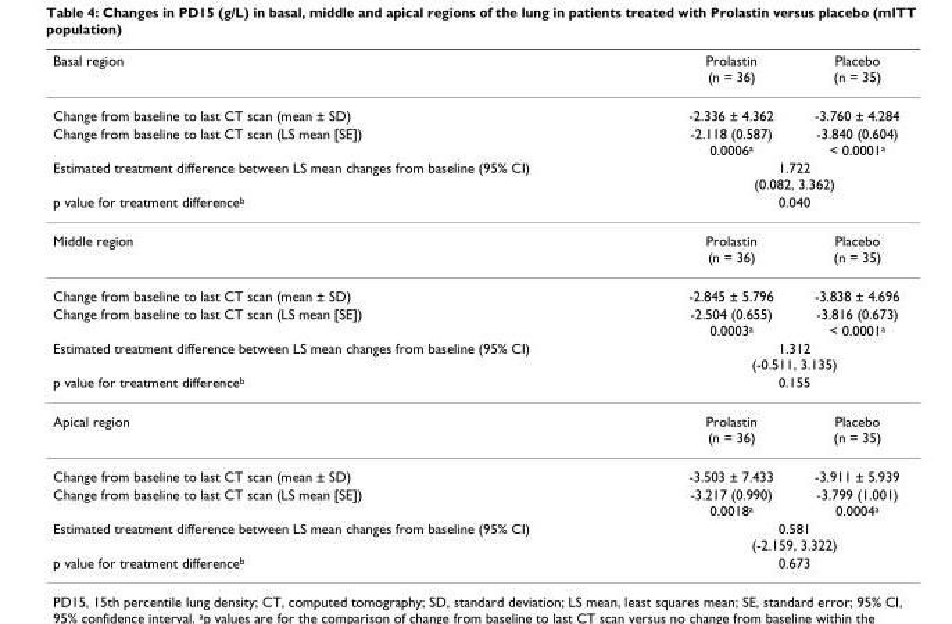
<table><thead><tr><td>Basal region</td><td>Prolastin (n = 36)</td><td>Placebo (n = 35)</td></tr></thead><tbody><tr><td>Change from baseline to last CT scan (mean ± SD)</td><td>-2.336 ± 4.362</td><td>-3.760 ± 4.284</td></tr><tr><td>Change from baseline to last CT scan (LS mean [SE])</td><td>-2.118 (0.587) 0.0006<sup>a</sup></td><td>-3.840 (0.604) &lt; 0.0001<sup>a</sup></td></tr><tr><td>Estimated treatment difference between LS mean changes from baseline (95% CI)</td><td colspan="2">1.722 (0.082, 3.362)</td></tr><tr><td>p value for treatment difference<sup>b</sup></td><td colspan="2">0.040</td></tr><tr><td>Middle region</td><td>Prolastin (n = 36)</td><td>Placebo (n = 35)</td></tr><tr><td>Change from baseline to last CT scan (mean ± SD)</td><td>-2.845 ± 5.796</td><td>-3.838 ± 4.696</td></tr><tr><td>Change from baseline to last CT scan (LS mean [SE])</td><td>-2.504 (0.655) 0.0003<sup>a</sup></td><td>-3.816 (0.673) &lt; 0.0001<sup>a</sup></td></tr><tr><td>Estimated treatment difference between LS mean changes from baseline (95% CI)</td><td colspan="2">1.312 (-0.511, 3.135)</td></tr><tr><td>p value for treatment difference<sup>b</sup></td><td colspan="2">0.155</td></tr><tr><td>Apical region</td><td>Prolastin (n = 36)</td><td>Placebo (n = 35)</td></tr><tr><td>Change from baseline to last CT scan (mean ± SD)</td><td>-3.503 ± 7.433</td><td>-3.911 ± 5.939</td></tr><tr><td>Change from baseline to last CT scan (LS mean [SE])</td><td>-3.217 (0.990) 0.0018<sup>a</sup></td><td>-3.799 (1.001) 0.0004<sup>a</sup></td></tr><tr><td>Estimated treatment difference between LS mean changes from baseline (95% CI)</td><td colspan="2">0.581 (-2.159, 3.322)</td></tr><tr><td>p value for treatment difference<sup>b</sup></td><td colspan="2">0.673</td></tr></tbody></table>